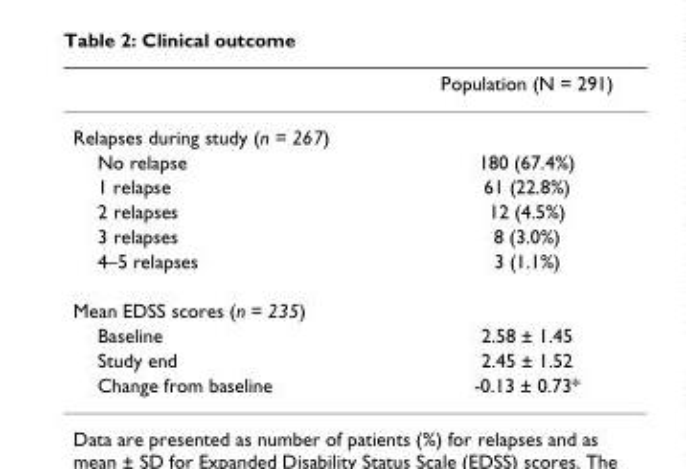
<table><thead><tr><td></td><td>Population (N = 291)</td></tr></thead><tbody><tr><td colspan="2">Relapses during study (n = 267)</td></tr><tr><td>No relapse</td><td>180 (67.4%)</td></tr><tr><td>1 relapse</td><td>61 (22.8%)</td></tr><tr><td>2 relapses</td><td>12 (4.5%)</td></tr><tr><td>3 relapses</td><td>8 (3.0%)</td></tr><tr><td>4–5 relapses</td><td>3 (1.1%)</td></tr><tr><td colspan="2">Mean EDSS scores (n = 235)</td></tr><tr><td>Baseline</td><td>2.58 ± 1.45</td></tr><tr><td>Study end</td><td>2.45 ± 1.52</td></tr><tr><td>Change from baseline</td><td>-0.13 ± 0.73*</td></tr></tbody></table>